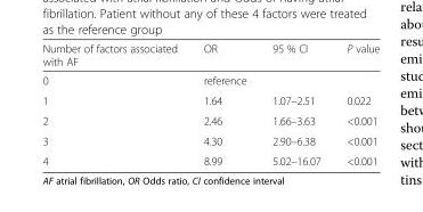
<table><thead><tr><td>Number of factors associated with AF</td><td>OR</td><td>95 % CI</td><td>P value</td></tr></thead><tbody><tr><td>0</td><td>reference</td><td></td><td></td></tr><tr><td>1</td><td>1.64</td><td>1.07–2.51</td><td>0.022</td></tr><tr><td>2</td><td>2.46</td><td>1.66–3.63</td><td>&lt;0.001</td></tr><tr><td>3</td><td>4.30</td><td>2.90–6.38</td><td>&lt;0.001</td></tr><tr><td>4</td><td>8.99</td><td>5.02–16.07</td><td>&lt;0.001</td></tr></tbody></table>